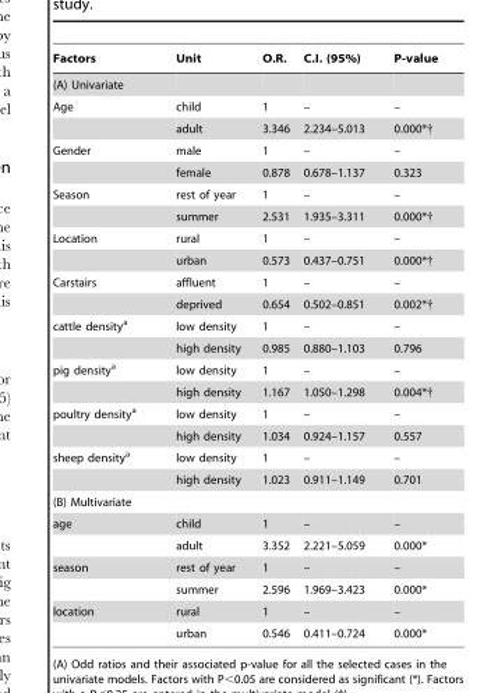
<table><thead><tr><td>Factors</td><td>Unit</td><td>O.R.</td><td>C.I. (95%)</td><td>P-value</td></tr></thead><tbody><tr><td colspan="5">(A) Univariate</td></tr><tr><td rowspan="2">Age</td><td>child</td><td>1</td><td>–</td><td>–</td></tr><tr><td>adult</td><td>3.346</td><td>2.234–5.013</td><td>0.000*†</td></tr><tr><td rowspan="2">Gender</td><td>male</td><td>1</td><td>–</td><td>–</td></tr><tr><td>female</td><td>0.878</td><td>0.678–1.137</td><td>0.323</td></tr><tr><td rowspan="2">Season</td><td>rest of year</td><td>1</td><td>–</td><td>–</td></tr><tr><td>summer</td><td>2.531</td><td>1.935–3.311</td><td>0.000*†</td></tr><tr><td rowspan="2">Location</td><td>rural</td><td>1</td><td>–</td><td>–</td></tr><tr><td>urban</td><td>0.573</td><td>0.437–0.751</td><td>0.000*†</td></tr><tr><td rowspan="2">Carstairs</td><td>affluent</td><td>1</td><td>–</td><td>–</td></tr><tr><td>deprived</td><td>0.654</td><td>0.502–0.851</td><td>0.002*†</td></tr><tr><td rowspan="2">cattle density<sup>a</sup></td><td>low density</td><td>1</td><td>–</td><td>–</td></tr><tr><td>high density</td><td>0.985</td><td>0.880–1.103</td><td>0.796</td></tr><tr><td rowspan="2">pig density<sup>a</sup></td><td>low density</td><td>1</td><td>–</td><td>–</td></tr><tr><td>high density</td><td>1.167</td><td>1.050–1.298</td><td>0.004*†</td></tr><tr><td rowspan="2">poultry density<sup>a</sup></td><td>low density</td><td>1</td><td>–</td><td>–</td></tr><tr><td>high density</td><td>1.034</td><td>0.924–1.157</td><td>0.557</td></tr><tr><td rowspan="2">sheep density<sup>a</sup></td><td>low density</td><td>1</td><td>–</td><td>–</td></tr><tr><td>high density</td><td>1.023</td><td>0.911–1.149</td><td>0.701</td></tr><tr><td colspan="5">(B) Multivariate</td></tr><tr><td rowspan="2">age</td><td>child</td><td>1</td><td>–</td><td>–</td></tr><tr><td>adult</td><td>3.352</td><td>2.221–5.059</td><td>0.000*</td></tr><tr><td rowspan="2">season</td><td>rest of year</td><td>1</td><td>–</td><td>–</td></tr><tr><td>summer</td><td>2.596</td><td>1.969–3.423</td><td>0.000*</td></tr><tr><td rowspan="2">location</td><td>rural</td><td>1</td><td>–</td><td>–</td></tr><tr><td>urban</td><td>0.546</td><td>0.411–0.724</td><td>0.000*</td></tr></tbody></table>